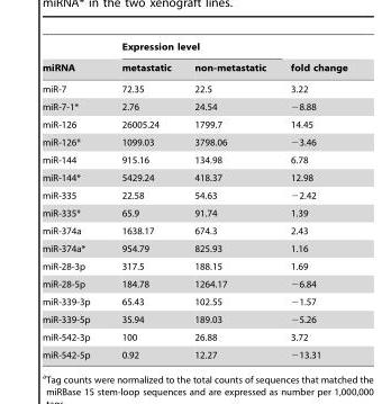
<table><thead><tr><td rowspan="2">miRNA</td><td colspan="2">Expression level</td><td rowspan="2">fold change</td></tr><tr><td>metastatic</td><td>non-metastatic</td></tr></thead><tbody><tr><td>miR-7</td><td>72.35</td><td>22.5</td><td>3.22</td></tr><tr><td>miR-7-1*</td><td>2.76</td><td>24.54</td><td>−8.88</td></tr><tr><td>miR-126</td><td>26005.24</td><td>1799.7</td><td>14.45</td></tr><tr><td>miR-126*</td><td>1099.03</td><td>3798.06</td><td>−3.46</td></tr><tr><td>miR-144</td><td>915.16</td><td>134.98</td><td>6.78</td></tr><tr><td>miR-144*</td><td>5429.24</td><td>418.37</td><td>12.98</td></tr><tr><td>miR-335</td><td>22.58</td><td>54.63</td><td>−2.42</td></tr><tr><td>miR-335*</td><td>65.9</td><td>91.74</td><td>1.39</td></tr><tr><td>miR-374a</td><td>1638.17</td><td>674.3</td><td>2.43</td></tr><tr><td>miR-374a*</td><td>954.79</td><td>825.93</td><td>1.16</td></tr><tr><td>miR-28-3p</td><td>317.5</td><td>188.15</td><td>1.69</td></tr><tr><td>miR-28-5p</td><td>184.78</td><td>1264.17</td><td>−6.84</td></tr><tr><td>miR-339-3p</td><td>65.43</td><td>102.55</td><td>−1.57</td></tr><tr><td>miR-339-5p</td><td>35.94</td><td>189.03</td><td>−5.26</td></tr><tr><td>miR-542-3p</td><td>100</td><td>26.88</td><td>3.72</td></tr><tr><td>miR-542-5p</td><td>0.92</td><td>12.27</td><td>−13.31</td></tr></tbody></table>